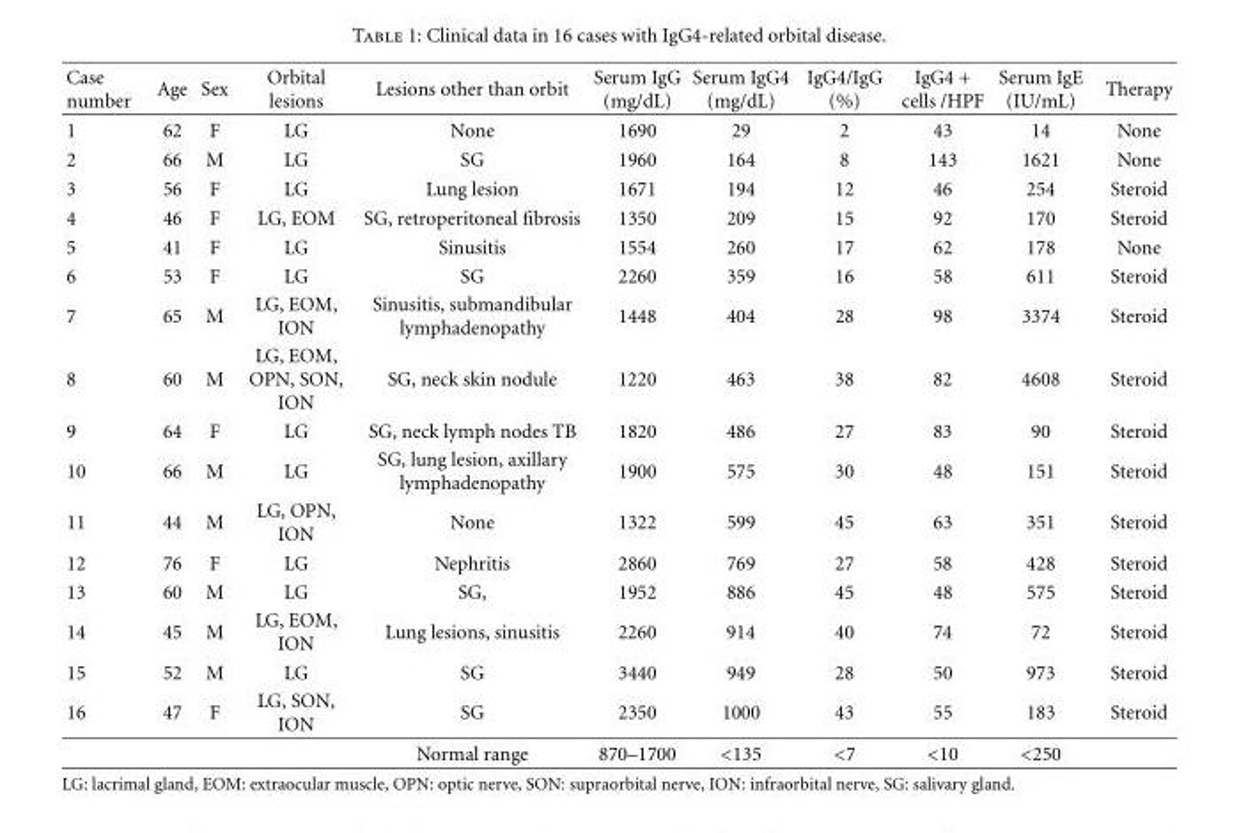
<table><thead><tr><td>Case number</td><td>Age</td><td>Sex</td><td>Orbital lesions</td><td>Lesions other than orbit</td><td>Serum IgG (mg/dL)</td><td>Serum IgG4 (mg/dL)</td><td>IgG4/IgG (%)</td><td>IgG4 + cells /HPF</td><td>Serum IgE (IU/mL)</td><td>Therapy</td></tr></thead><tbody><tr><td>1</td><td>62</td><td>F</td><td>LG</td><td>None</td><td>1690</td><td>29</td><td>2</td><td>43</td><td>14</td><td>None</td></tr><tr><td>2</td><td>66</td><td>M</td><td>LG</td><td>SG</td><td>1960</td><td>164</td><td>8</td><td>143</td><td>1621</td><td>None</td></tr><tr><td>3</td><td>56</td><td>F</td><td>LG</td><td>Lung lesion</td><td>1671</td><td>194</td><td>12</td><td>46</td><td>254</td><td>Steroid</td></tr><tr><td>4</td><td>46</td><td>F</td><td>LG, EOM</td><td>SG, retroperitoneal fibrosis</td><td>1350</td><td>209</td><td>15</td><td>92</td><td>170</td><td>Steroid</td></tr><tr><td>5</td><td>41</td><td>F</td><td>LG</td><td>Sinusitis</td><td>1554</td><td>260</td><td>17</td><td>62</td><td>178</td><td>None</td></tr><tr><td>6</td><td>53</td><td>F</td><td>LG</td><td>SG</td><td>2260</td><td>359</td><td>16</td><td>58</td><td>611</td><td>Steroid</td></tr><tr><td>7</td><td>65</td><td>M</td><td>LG, EOM, ION</td><td>Sinusitis, submandibular lymphadenopathy</td><td>1448</td><td>404</td><td>28</td><td>98</td><td>3374</td><td>Steroid</td></tr><tr><td>8</td><td>60</td><td>M</td><td>LG, EOM, OPN, SON, ION</td><td>SG, neck skin nodule</td><td>1220</td><td>463</td><td>38</td><td>82</td><td>4608</td><td>Steroid</td></tr><tr><td>9</td><td>64</td><td>F</td><td>LG</td><td>SG, neck lymph nodes TB</td><td>1820</td><td>486</td><td>27</td><td>83</td><td>90</td><td>Steroid</td></tr><tr><td>10</td><td>66</td><td>M</td><td>LG</td><td>SG, lung lesion, axillary lymphadenopathy</td><td>1900</td><td>575</td><td>30</td><td>48</td><td>151</td><td>Steroid</td></tr><tr><td>11</td><td>44</td><td>M</td><td>LG, OPN, ION</td><td>None</td><td>1322</td><td>599</td><td>45</td><td>63</td><td>351</td><td>Steroid</td></tr><tr><td>12</td><td>76</td><td>F</td><td>LG</td><td>Nephritis</td><td>2860</td><td>769</td><td>27</td><td>58</td><td>428</td><td>Steroid</td></tr><tr><td>13</td><td>60</td><td>M</td><td>LG</td><td>SG,</td><td>1952</td><td>886</td><td>45</td><td>48</td><td>575</td><td>Steroid</td></tr><tr><td>14</td><td>45</td><td>M</td><td>LG, EOM, ION</td><td>Lung lesions, sinusitis</td><td>2260</td><td>914</td><td>40</td><td>74</td><td>72</td><td>Steroid</td></tr><tr><td>15</td><td>52</td><td>M</td><td>LG</td><td>SG</td><td>3440</td><td>949</td><td>28</td><td>50</td><td>973</td><td>Steroid</td></tr><tr><td rowspan="2">16</td><td>47</td><td>F</td><td>LG, SON, ION</td><td>SG</td><td>2350</td><td>1000</td><td>43</td><td>55</td><td>183</td><td>Steroid</td></tr><tr><td></td><td></td><td></td><td>Normal range</td><td>870–1700</td><td>&lt;135</td><td>&lt;7</td><td>&lt;10</td><td>&lt;250</td><td></td></tr></tbody></table>